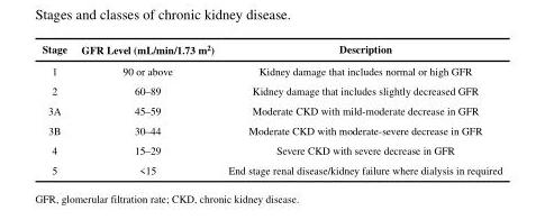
<table><thead><tr><td>Stage</td><td>GFR Level (mL/min/1.73 m<sup>2</sup>)</td><td>Description</td></tr></thead><tbody><tr><td>1</td><td>90 or above</td><td>Kidney damage that includes normal or high GFR</td></tr><tr><td>2</td><td>60–89</td><td>Kidney damage that includes slightly decreased GFR</td></tr><tr><td>3A</td><td>45–59</td><td>Moderate CKD with mild-moderate decrease in GFR</td></tr><tr><td>3B</td><td>30–44</td><td>Moderate CKD with moderate-severe decrease in GFR</td></tr><tr><td>4</td><td>15–29</td><td>Severe CKD with severe decrease in GFR</td></tr><tr><td>5</td><td>&lt;15</td><td>End stage renal disease/kidney failure where dialysis in required</td></tr></tbody></table>